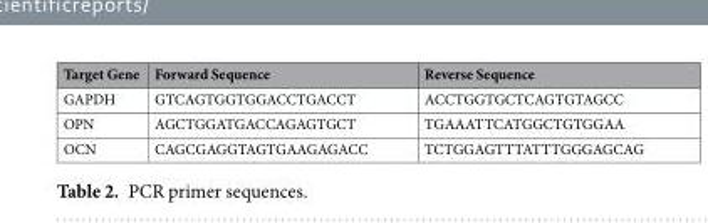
<table><thead><tr><td>Target Gene</td><td>Forward Sequence</td><td>Reverse Sequence</td></tr></thead><tbody><tr><td>GAPDH</td><td>GTCAGTGGTGGACCTGACCT</td><td>ACCTGGTGCTCAGTGTAGCC</td></tr><tr><td>OPN</td><td>AGCTGGATGACCAGAGTGCT</td><td>TGAAATTCATGGCTGTGGAA</td></tr><tr><td>OCN</td><td>CAGCGAGGTAGTGAAGAGACC</td><td>TCTGGAGTTTATTTGGGAGCAG</td></tr></tbody></table>